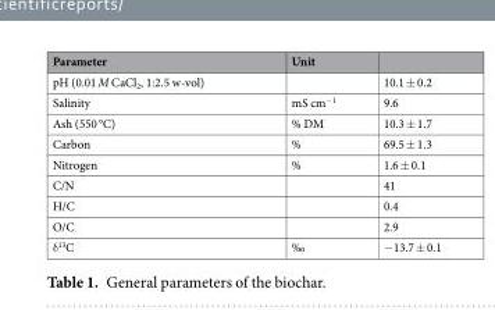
<table><thead><tr><td>Parameter</td><td>Unit</td><td></td></tr></thead><tbody><tr><td>pH (0.01 M CaCl<sub>2</sub>, 1:2.5 w-vol)</td><td></td><td>10.1 ± 0.2</td></tr><tr><td>Salinity</td><td>mS cm<sup>−1</sup></td><td>9.6</td></tr><tr><td>Ash (550 °C)</td><td>% DM</td><td>10.3 ± 1.7</td></tr><tr><td>Carbon</td><td>%</td><td>69.5 ± 1.3</td></tr><tr><td>Nitrogen</td><td>%</td><td>1.6 ± 0.1</td></tr><tr><td>C/N</td><td></td><td>41</td></tr><tr><td>H/C</td><td></td><td>0.4</td></tr><tr><td>O/C</td><td></td><td>2.9</td></tr><tr><td>δ<sup>13</sup>C</td><td>‰</td><td>−13.7 ± 0.1</td></tr></tbody></table>